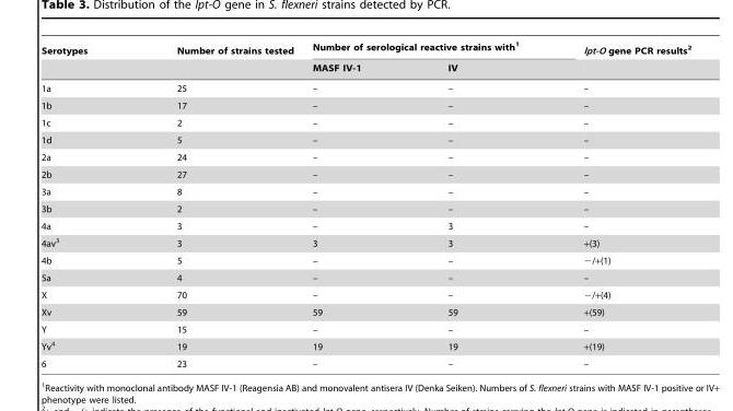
<table><thead><tr><td rowspan="2">Serotypes</td><td rowspan="2">Number of strains tested</td><td colspan="2">Number of serological reactive strains with<sup>1</sup></td><td rowspan="2">lpt-O gene PCR results<sup>2</sup></td></tr><tr><td>MASF IV-1</td><td>IV</td></tr></thead><tbody><tr><td>1a</td><td>25</td><td>–</td><td>–</td><td>–</td></tr><tr><td>1b</td><td>17</td><td>–</td><td>–</td><td>–</td></tr><tr><td>1c</td><td>2</td><td>–</td><td>–</td><td>–</td></tr><tr><td>1d</td><td>5</td><td>–</td><td>–</td><td>–</td></tr><tr><td>2a</td><td>24</td><td>–</td><td>–</td><td>–</td></tr><tr><td>2b</td><td>27</td><td>–</td><td>–</td><td>–</td></tr><tr><td>3a</td><td>8</td><td>–</td><td>–</td><td>–</td></tr><tr><td>3b</td><td>2</td><td>–</td><td>–</td><td>–</td></tr><tr><td>4a</td><td>3</td><td>–</td><td>3</td><td>–</td></tr><tr><td>4av<sup>3</sup></td><td>3</td><td>3</td><td>3</td><td>+(3)</td></tr><tr><td>4b</td><td>5</td><td>–</td><td>–</td><td>−/+(1)</td></tr><tr><td>5a</td><td>4</td><td>–</td><td>–</td><td>–</td></tr><tr><td>X</td><td>70</td><td>–</td><td>–</td><td>−/+(4)</td></tr><tr><td>Xv</td><td>59</td><td>59</td><td>59</td><td>+(59)</td></tr><tr><td>Y</td><td>15</td><td>–</td><td>–</td><td>–</td></tr><tr><td>Yv<sup>4</sup></td><td>19</td><td>19</td><td>19</td><td>+(19)</td></tr><tr><td>6</td><td>23</td><td>–</td><td>–</td><td>–</td></tr></tbody></table>